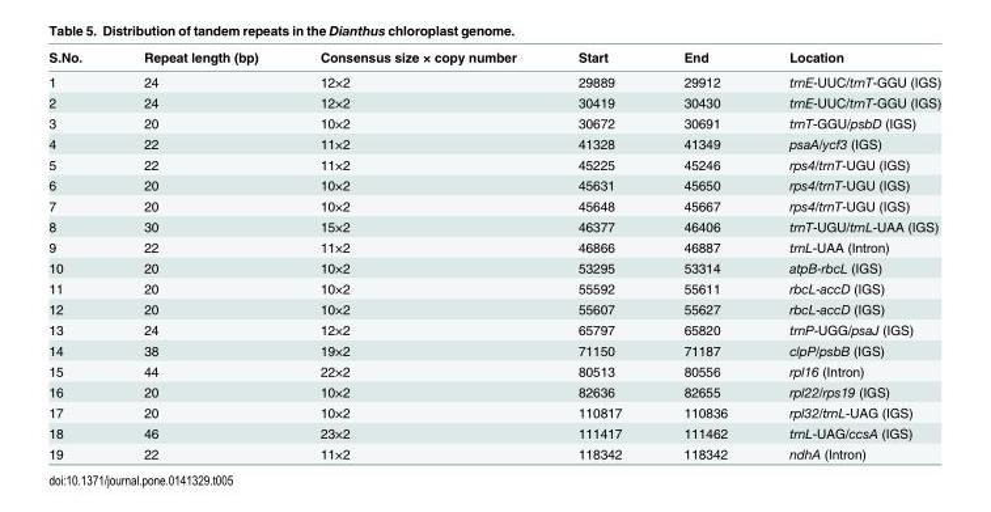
<table><thead><tr><td>S.No.</td><td>Repeat length (bp)</td><td>Consensus size × copy number</td><td>Start</td><td>End</td><td>Location</td></tr></thead><tbody><tr><td>1</td><td>24</td><td>12×2</td><td>29889</td><td>29912</td><td>trnE-UUC/trnT-GGU (IGS)</td></tr><tr><td>2</td><td>24</td><td>12×2</td><td>30419</td><td>30430</td><td>trnE-UUC/trnT-GGU (IGS)</td></tr><tr><td>3</td><td>20</td><td>10×2</td><td>30672</td><td>30691</td><td>trnT-GGU/psbD (IGS)</td></tr><tr><td>4</td><td>22</td><td>11×2</td><td>41328</td><td>41349</td><td>psaA/ycf3 (IGS)</td></tr><tr><td>5</td><td>22</td><td>11×2</td><td>45225</td><td>45246</td><td>rps4/trnT-UGU (IGS)</td></tr><tr><td>6</td><td>20</td><td>10×2</td><td>45631</td><td>45650</td><td>rps4/trnT-UGU (IGS)</td></tr><tr><td>7</td><td>20</td><td>10×2</td><td>45648</td><td>45667</td><td>rps4/trnT-UGU (IGS)</td></tr><tr><td>8</td><td>30</td><td>15×2</td><td>46377</td><td>46406</td><td>trnT-UGU/trnL-UAA (IGS)</td></tr><tr><td>9</td><td>22</td><td>11×2</td><td>46866</td><td>46887</td><td>trnL-UAA (Intron)</td></tr><tr><td>10</td><td>20</td><td>10×2</td><td>53295</td><td>53314</td><td>atpB-rbcL (IGS)</td></tr><tr><td>11</td><td>20</td><td>10×2</td><td>55592</td><td>55611</td><td>rbcL-accD (IGS)</td></tr><tr><td>12</td><td>20</td><td>10×2</td><td>55607</td><td>55627</td><td>rbcL-accD (IGS)</td></tr><tr><td>13</td><td>24</td><td>12×2</td><td>65797</td><td>65820</td><td>trnP-UGG/psaJ (IGS)</td></tr><tr><td>14</td><td>38</td><td>19×2</td><td>71150</td><td>71187</td><td>clpP/psbB (IGS)</td></tr><tr><td>15</td><td>44</td><td>22×2</td><td>80513</td><td>80556</td><td>rpl16 (Intron)</td></tr><tr><td>16</td><td>20</td><td>10×2</td><td>82636</td><td>82655</td><td>rpl22/rps19 (IGS)</td></tr><tr><td>17</td><td>20</td><td>10×2</td><td>110817</td><td>110836</td><td>rpl32/trnL-UAG (IGS)</td></tr><tr><td>18</td><td>46</td><td>23×2</td><td>111417</td><td>111462</td><td>trnL-UAG/ccsA (IGS)</td></tr><tr><td>19</td><td>22</td><td>11×2</td><td>118342</td><td>118342</td><td>ndhA (Intron)</td></tr></tbody></table>